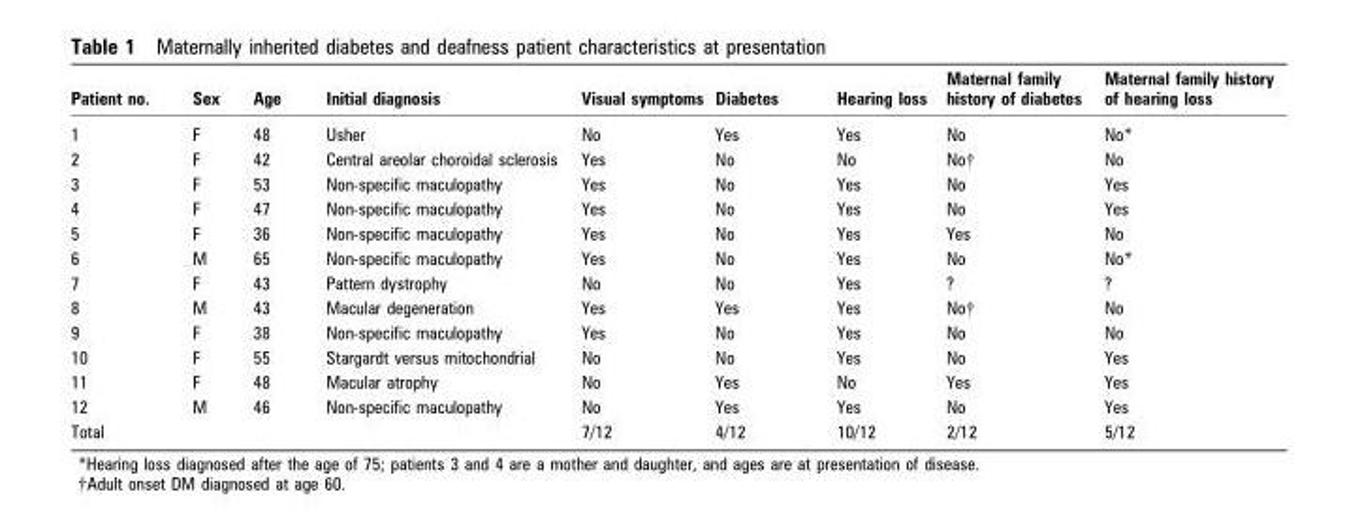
<table><thead><tr><td>Patient no.</td><td>Sex</td><td>Age</td><td>Initial diagnosis</td><td>Visual symptoms</td><td>Diabetes</td><td>Hearing loss</td><td>Maternal family history of diabetes</td><td>Maternal family history of hearing loss</td></tr></thead><tbody><tr><td>1</td><td>F</td><td>48</td><td>Usher</td><td>No</td><td>Yes</td><td>Yes</td><td>No</td><td>No*</td></tr><tr><td>2</td><td>F</td><td>42</td><td>Central areolar choroidal sclerosis</td><td>Yes</td><td>No</td><td>No</td><td>No†</td><td>No</td></tr><tr><td>3</td><td>F</td><td>53</td><td>Non-specific maculopathy</td><td>Yes</td><td>No</td><td>Yes</td><td>No</td><td>Yes</td></tr><tr><td>4</td><td>F</td><td>47</td><td>Non-specific maculopathy</td><td>Yes</td><td>No</td><td>Yes</td><td>No</td><td>Yes</td></tr><tr><td>5</td><td>F</td><td>36</td><td>Non-specific maculopathy</td><td>Yes</td><td>No</td><td>Yes</td><td>Yes</td><td>No</td></tr><tr><td>6</td><td>M</td><td>65</td><td>Non-specific maculopathy</td><td>Yes</td><td>No</td><td>Yes</td><td>No</td><td>No*</td></tr><tr><td>7</td><td>F</td><td>43</td><td>Pattern dystrophy</td><td>No</td><td>No</td><td>Yes</td><td>?</td><td>?</td></tr><tr><td>8</td><td>M</td><td>43</td><td>Macular degeneration</td><td>Yes</td><td>Yes</td><td>Yes</td><td>No†</td><td>No</td></tr><tr><td>9</td><td>F</td><td>38</td><td>Non-specific maculopathy</td><td>Yes</td><td>No</td><td>Yes</td><td>No</td><td>No</td></tr><tr><td>10</td><td>F</td><td>55</td><td>Stargardt versus mitochondrial</td><td>No</td><td>No</td><td>Yes</td><td>No</td><td>Yes</td></tr><tr><td>11</td><td>F</td><td>48</td><td>Macular atrophy</td><td>No</td><td>Yes</td><td>No</td><td>Yes</td><td>Yes</td></tr><tr><td>12</td><td>M</td><td>46</td><td>Non-specific maculopathy</td><td>No</td><td>Yes</td><td>Yes</td><td>No</td><td>Yes</td></tr><tr><td>Total</td><td></td><td></td><td></td><td>7/12</td><td>4/12</td><td>10/12</td><td>2/12</td><td>5/12</td></tr></tbody></table>